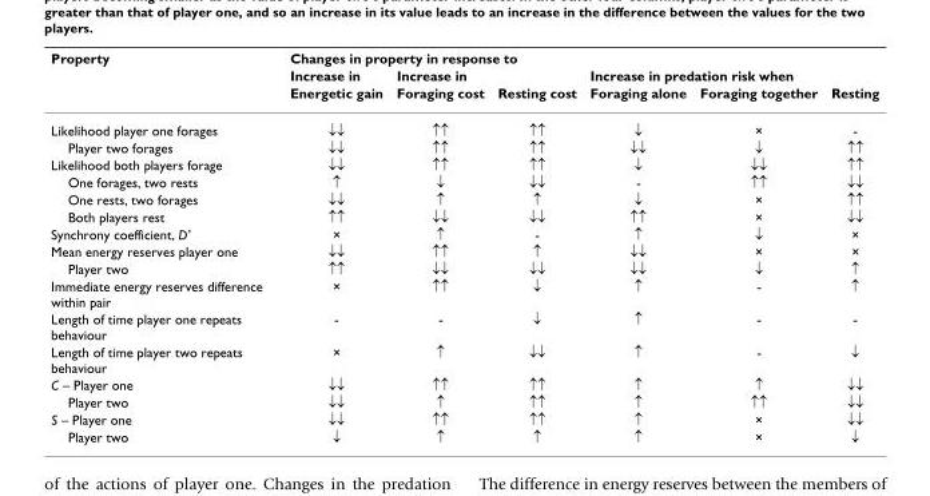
<table><thead><tr><td rowspan="3">Property</td><td colspan="6">Changes in property in response to</td></tr><tr><td rowspan="2">Increase in Energetic gain</td><td colspan="2">Increase in</td><td colspan="3">Increase in predation risk when</td></tr><tr><td>Foraging cost</td><td>Resting cost</td><td>Foraging alone</td><td>Foraging together</td><td>Resting</td></tr></thead><tbody><tr><td>Likelihood player one forages</td><td>↓↓</td><td>↑↑</td><td>↑↑</td><td>↓</td><td>×</td><td>-</td></tr><tr><td>Player two forages</td><td>↓↓</td><td>↑↑</td><td>↑↑</td><td>↓↓</td><td>↓</td><td>↑↑</td></tr><tr><td>Likelihood both players forage</td><td>↓↓</td><td>↑↑</td><td>↑↑</td><td>↓</td><td>↓↓</td><td>↑↑</td></tr><tr><td>One forages, two rests</td><td>↑</td><td>↓</td><td>↓↓</td><td>-</td><td>↑↑</td><td>↓↓</td></tr><tr><td>One rests, two forages</td><td>↓↓</td><td>↑</td><td>↑</td><td>↓</td><td>×</td><td>↑↑</td></tr><tr><td>Both players rest</td><td>↑↑</td><td>↓↓</td><td>↓↓</td><td>↑↑</td><td>×</td><td>↓↓</td></tr><tr><td>Synchrony coefficient, D&#x27;</td><td>×</td><td>↑</td><td>-</td><td>↑</td><td>↓</td><td>×</td></tr><tr><td>Mean energy reserves player one</td><td>↓↓</td><td>↑↑</td><td>↑</td><td>↓↓</td><td>×</td><td>×</td></tr><tr><td>Player two</td><td>↑↑</td><td>↓↓</td><td>↓↓</td><td>↓↓</td><td>↓</td><td>↑</td></tr><tr><td>Immediate energy reserves difference within pair</td><td>×</td><td>↑↑</td><td>↓</td><td>↑</td><td>-</td><td>↑</td></tr><tr><td>Length of time player one repeats behaviour</td><td>-</td><td>-</td><td>↓</td><td>↑</td><td>-</td><td>-</td></tr><tr><td>Length of time player two repeats behaviour</td><td>×</td><td>↑</td><td>↓↓</td><td>↑</td><td>-</td><td>↓</td></tr><tr><td>C – Player one</td><td>↓↓</td><td>↑↑</td><td>↑↑</td><td>↑</td><td>↑</td><td>↓↓</td></tr><tr><td>Player two</td><td>↓↓</td><td>↑</td><td>↑↑</td><td>↑</td><td>↑↑</td><td>↓↓</td></tr><tr><td>S – Player one</td><td>↓↓</td><td>↑↑</td><td>↑↑</td><td>↑</td><td>×</td><td>↓↓</td></tr><tr><td>Player two</td><td>↓</td><td>↑</td><td>↑</td><td>↑</td><td>×</td><td>↓</td></tr></tbody></table>